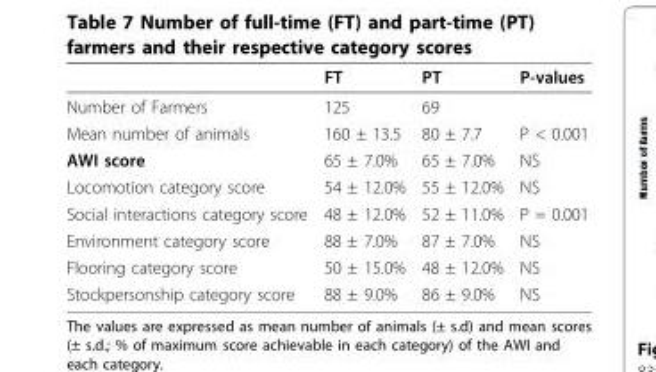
<table><thead><tr><td></td><td>FT</td><td>PT</td><td>P-values</td></tr></thead><tbody><tr><td>Number of Farmers</td><td>125</td><td>69</td><td></td></tr><tr><td>Mean number of animals</td><td>160 ± 13.5</td><td>80 ± 7.7</td><td>P &lt; 0.001</td></tr><tr><td>AWI score</td><td>65 ± 7.0%</td><td>65 ± 7.0%</td><td>NS</td></tr><tr><td>Locomotion category score</td><td>54 ± 12.0%</td><td>55 ± 12.0%</td><td>NS</td></tr><tr><td>Social interactions category score</td><td>48 ± 12.0%</td><td>52 ± 11.0%</td><td>P = 0.001</td></tr><tr><td>Environment category score</td><td>88 ± 7.0%</td><td>87 ± 7.0%</td><td>NS</td></tr><tr><td>Flooring category score</td><td>50 ± 15.0%</td><td>48 ± 12.0%</td><td>NS</td></tr><tr><td>Stockpersonship category score</td><td>88 ± 9.0%</td><td>86 ± 9.0%</td><td>NS</td></tr></tbody></table>